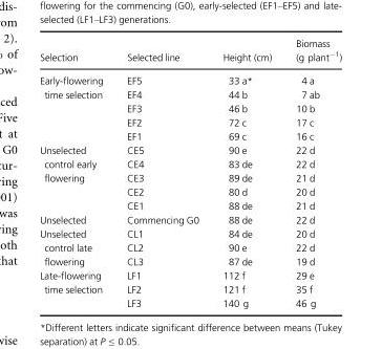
<table><thead><tr><td>Selection</td><td>Selected line</td><td>Height (cm)</td><td>Biomass (g plant<sup>−1</sup>)</td></tr></thead><tbody><tr><td rowspan="5">Early-flowering time selection</td><td>EF5</td><td>33 a*</td><td>4 a</td></tr><tr><td>EF4</td><td>44 b</td><td>7 ab</td></tr><tr><td>EF3</td><td>46 b</td><td>10 b</td></tr><tr><td>EF2</td><td>72 c</td><td>17 c</td></tr><tr><td>EF1</td><td>69 c</td><td>16 c</td></tr><tr><td rowspan="5">Unselected control early flowering</td><td>CE5</td><td>90 e</td><td>22 d</td></tr><tr><td>CE4</td><td>83 de</td><td>22 d</td></tr><tr><td>CE3</td><td>89 de</td><td>21 d</td></tr><tr><td>CE2</td><td>80 d</td><td>20 d</td></tr><tr><td>CE1</td><td>88 de</td><td>21 d</td></tr><tr><td>Unselected</td><td>Commencing G0</td><td>88 de</td><td>22 d</td></tr><tr><td rowspan="3">Unselected control late flowering</td><td>CL1</td><td>84 de</td><td>20 d</td></tr><tr><td>CL2</td><td>90 e</td><td>22 d</td></tr><tr><td>CL3</td><td>87 de</td><td>19 d</td></tr><tr><td rowspan="3">Late-flowering time selection</td><td>LF1</td><td>112 f</td><td>29 e</td></tr><tr><td>LF2</td><td>121 f</td><td>35 f</td></tr><tr><td>LF3</td><td>140 g</td><td>46 g</td></tr></tbody></table>